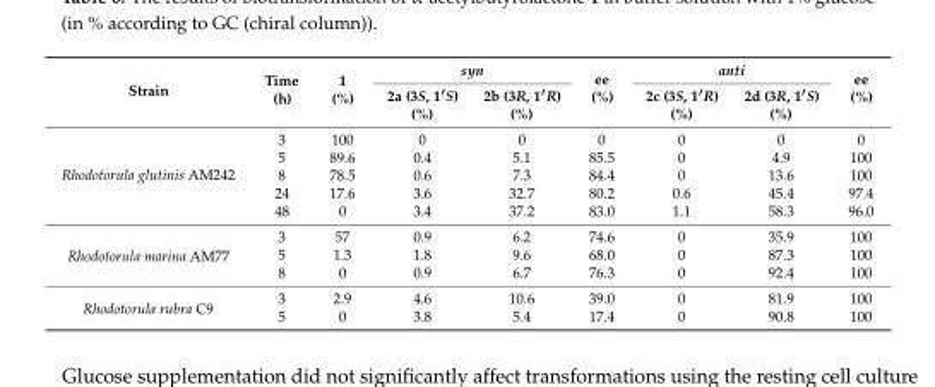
<table><thead><tr><td rowspan="2">Strain</td><td rowspan="2">Time (h)</td><td rowspan="2">1 (%)</td><td colspan="2">syn</td><td rowspan="2">ee (%)</td><td colspan="2">anti</td><td rowspan="2">ee (%)</td></tr><tr><td>2a (3S, 1′S) (%)</td><td>2b (3R, 1′R) (%)</td><td>2c (3S, 1′R) (%)</td><td>2d (3R, 1′S) (%)</td></tr></thead><tbody><tr><td rowspan="5">Rhodotorula glutinis AM242</td><td>3</td><td>100</td><td>0</td><td>0</td><td>0</td><td>0</td><td>0</td><td>0</td></tr><tr><td>5</td><td>89.6</td><td>0.4</td><td>5.1</td><td>85.5</td><td>0</td><td>4.9</td><td>100</td></tr><tr><td>8</td><td>78.5</td><td>0.6</td><td>7.3</td><td>84.4</td><td>0</td><td>13.6</td><td>100</td></tr><tr><td>24</td><td>17.6</td><td>3.6</td><td>32.7</td><td>80.2</td><td>0.6</td><td>45.4</td><td>97.4</td></tr><tr><td>48</td><td>0</td><td>3.4</td><td>37.2</td><td>83.0</td><td>1.1</td><td>58.3</td><td>96.0</td></tr><tr><td rowspan="3">Rhodotorula marina AM77</td><td>3</td><td>57</td><td>0.9</td><td>6.2</td><td>74.6</td><td>0</td><td>35.9</td><td>100</td></tr><tr><td>5</td><td>1.3</td><td>1.8</td><td>9.6</td><td>68.0</td><td>0</td><td>87.3</td><td>100</td></tr><tr><td>8</td><td>0</td><td>0.9</td><td>6.7</td><td>76.3</td><td>0</td><td>92.4</td><td>100</td></tr><tr><td rowspan="2">Rhodotorula rubra C9</td><td>3</td><td>2.9</td><td>4.6</td><td>10.6</td><td>39.0</td><td>0</td><td>81.9</td><td>100</td></tr><tr><td>5</td><td>0</td><td>3.8</td><td>5.4</td><td>17.4</td><td>0</td><td>90.8</td><td>100</td></tr></tbody></table>